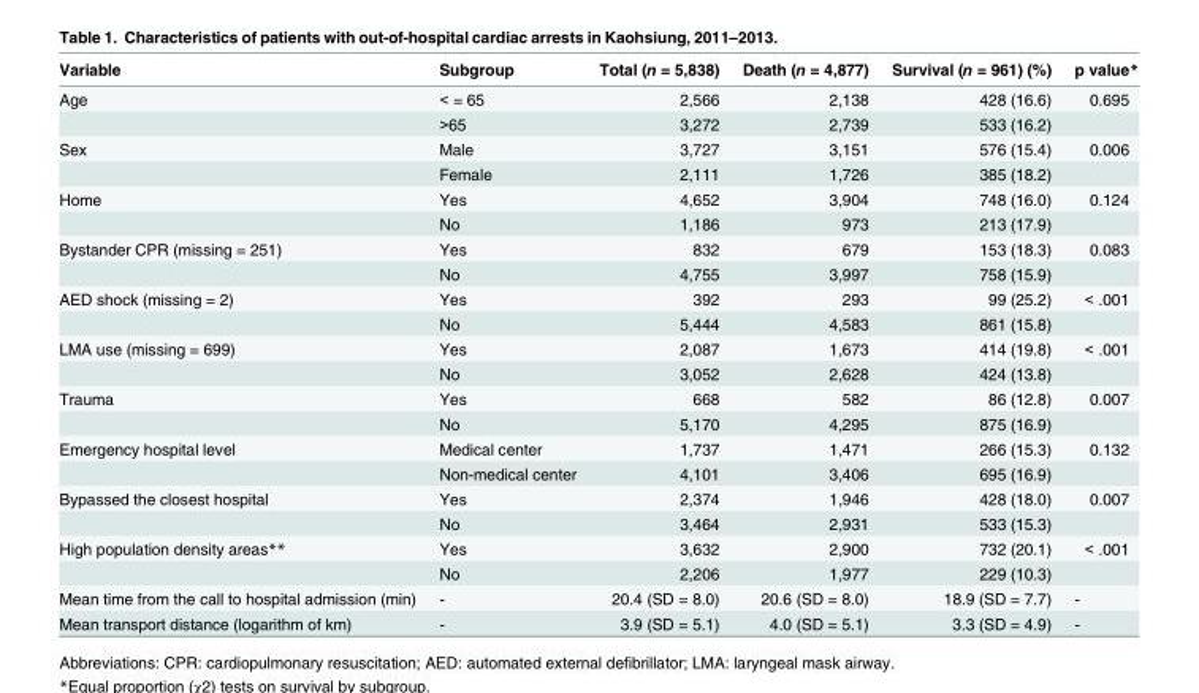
<table><thead><tr><td>Variable</td><td>Subgroup</td><td>Total (n = 5,838)</td><td>Death (n = 4,877)</td><td>Survival (n = 961) (%)</td><td>p value*</td></tr></thead><tbody><tr><td rowspan="2">Age</td><td>&lt; = 65</td><td>2,566</td><td>2,138</td><td>428 (16.6)</td><td>0.695</td></tr><tr><td>&gt;65</td><td>3,272</td><td>2,739</td><td>533 (16.2)</td><td></td></tr><tr><td rowspan="2">Sex</td><td>Male</td><td>3,727</td><td>3,151</td><td>576 (15.4)</td><td>0.006</td></tr><tr><td>Female</td><td>2,111</td><td>1,726</td><td>385 (18.2)</td><td></td></tr><tr><td rowspan="2">Home</td><td>Yes</td><td>4,652</td><td>3,904</td><td>748 (16.0)</td><td>0.124</td></tr><tr><td>No</td><td>1,186</td><td>973</td><td>213 (17.9)</td><td></td></tr><tr><td rowspan="2">Bystander CPR (missing = 251)</td><td>Yes</td><td>832</td><td>679</td><td>153 (18.3)</td><td>0.083</td></tr><tr><td>No</td><td>4,755</td><td>3,997</td><td>758 (15.9)</td><td></td></tr><tr><td rowspan="2">AED shock (missing = 2)</td><td>Yes</td><td>392</td><td>293</td><td>99 (25.2)</td><td>&lt; .001</td></tr><tr><td>No</td><td>5,444</td><td>4,583</td><td>861 (15.8)</td><td></td></tr><tr><td rowspan="2">LMA use (missing = 699)</td><td>Yes</td><td>2,087</td><td>1,673</td><td>414 (19.8)</td><td>&lt; .001</td></tr><tr><td>No</td><td>3,052</td><td>2,628</td><td>424 (13.8)</td><td></td></tr><tr><td rowspan="2">Trauma</td><td>Yes</td><td>668</td><td>582</td><td>86 (12.8)</td><td>0.007</td></tr><tr><td>No</td><td>5,170</td><td>4,295</td><td>875 (16.9)</td><td></td></tr><tr><td rowspan="2">Emergency hospital level</td><td>Medical center</td><td>1,737</td><td>1,471</td><td>266 (15.3)</td><td>0.132</td></tr><tr><td>Non-medical center</td><td>4,101</td><td>3,406</td><td>695 (16.9)</td><td></td></tr><tr><td rowspan="2">Bypassed the closest hospital</td><td>Yes</td><td>2,374</td><td>1,946</td><td>428 (18.0)</td><td>0.007</td></tr><tr><td>No</td><td>3,464</td><td>2,931</td><td>533 (15.3)</td><td></td></tr><tr><td rowspan="2">High population density areas**</td><td>Yes</td><td>3,632</td><td>2,900</td><td>732 (20.1)</td><td>&lt; .001</td></tr><tr><td>No</td><td>2,206</td><td>1,977</td><td>229 (10.3)</td><td></td></tr><tr><td>Mean time from the call to hospital admission (min)</td><td>-</td><td>20.4 (SD = 8.0)</td><td>20.6 (SD = 8.0)</td><td>18.9 (SD = 7.7)</td><td>-</td></tr><tr><td>Mean transport distance (logarithm of km)</td><td>-</td><td>3.9 (SD = 5.1)</td><td>4.0 (SD = 5.1)</td><td>3.3 (SD = 4.9)</td><td>-</td></tr></tbody></table>